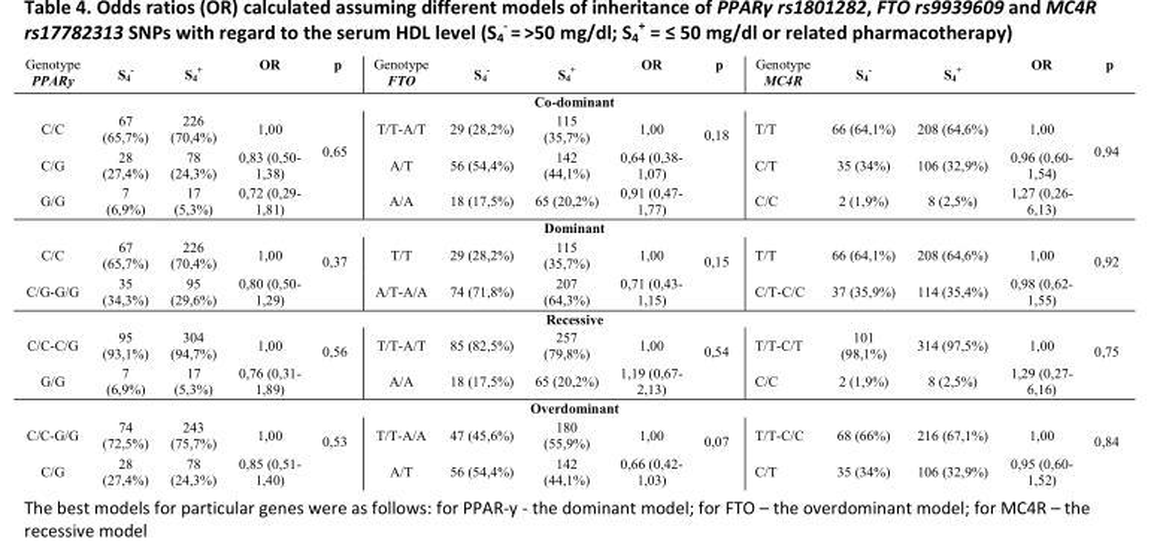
<table><tbody><tr><td>Genotype PPARy</td><td>S<sub>4</sub> <sup>-</sup></td><td>S<sub>4</sub> <sup>+</sup></td><td>OR</td><td>p</td><td>Genotype FTO</td><td>S<sub>4</sub> <sup>-</sup></td><td>S<sub>4</sub> <sup>+</sup></td><td>OR</td><td>p</td><td>Genotype MC4R</td><td>S<sub>4</sub> <sup>-</sup></td><td>S<sub>4</sub> <sup>+</sup></td><td>OR</td><td>p</td></tr><tr><td colspan="15">Co-dominant</td></tr><tr><td>C/C</td><td>67 (65,7%)</td><td>226 (70,4%)</td><td>1,00</td><td rowspan="3">0,65</td><td>T/T-A/T</td><td>29 (28,2%)</td><td>115 (35,7%)</td><td>1,00</td><td rowspan="3">0,18</td><td>T/T</td><td>66 (64,1%)</td><td>208 (64,6%)</td><td>1,00</td><td rowspan="3">0,94</td></tr><tr><td>C/G</td><td>28 (27,4%)</td><td>78 (24,3%)</td><td>0,83 (0,50- 1,38)</td><td>A/T</td><td>56 (54,4%)</td><td>142 (44,1%)</td><td>0,64 (0,38- 1,07)</td><td>C/T</td><td>35 (34%)</td><td>106 (32,9%)</td><td>0,96 (0,60- 1,54)</td></tr><tr><td>G/G</td><td>7 (6,9%)</td><td>17 (5,3%)</td><td>0,72 (0,29- 1,81)</td><td>A/A</td><td>18 (17,5%)</td><td>65 (20,2%)</td><td>0,91 (0,47- 1,77)</td><td>C/C</td><td>2 (1,9%)</td><td>8 (2,5%)</td><td>1,27 (0,26- 6,13)</td></tr><tr><td colspan="15">Dominant</td></tr><tr><td>C/C</td><td>67 (65,7%)</td><td>226 (70,4%)</td><td>1,00</td><td rowspan="2">0,37</td><td>T/T</td><td>29 (28,2%)</td><td>115 (35,7%)</td><td>1,00</td><td rowspan="2">0,15</td><td>T/T</td><td>66 (64,1%)</td><td>208 (64,6%)</td><td>1,00</td><td rowspan="2">0,92</td></tr><tr><td>C/G-G/G</td><td>35 (34,3%)</td><td>95 (29,6%)</td><td>0,80 (0,50- 1,29)</td><td>A/T-A/A</td><td>74 (71,8%)</td><td>207 (64,3%)</td><td>0,71 (0,43- 1,15)</td><td>C/T-C/C</td><td>37 (35,9%)</td><td>114 (35,4%)</td><td>0,98 (0,62- 1,55)</td></tr><tr><td colspan="15">Recessive</td></tr><tr><td>C/C-C/G</td><td>95 (93,1%)</td><td>304 (94,7%)</td><td>1,00</td><td rowspan="2">0,56</td><td>T/T-A/T</td><td>85 (82,5%)</td><td>257 (79,8%)</td><td>1,00</td><td rowspan="2">0,54</td><td>T/T-C/T</td><td>101 (98,1%)</td><td>314 (97,5%)</td><td>1,00</td><td rowspan="2">0,75</td></tr><tr><td>G/G</td><td>7 (6,9%)</td><td>17 (5,3%)</td><td>0,76 (0,31- 1,89)</td><td>A/A</td><td>18 (17,5%)</td><td>65 (20,2%)</td><td>1,19 (0,67- 2,13)</td><td>C/C</td><td>2 (1,9%)</td><td>8 (2,5%)</td><td>1,29 (0,27- 6,16)</td></tr><tr><td colspan="15">Overdominant</td></tr><tr><td>C/C-G/G</td><td>74 (72,5%)</td><td>243 (75,7%)</td><td>1,00</td><td rowspan="2">0,53</td><td>T/T-A/A</td><td>47 (45,6%)</td><td>180 (55,9%)</td><td>1,00</td><td rowspan="2">0,07</td><td>T/T-C/C</td><td>68 (66%)</td><td>216 (67,1%)</td><td>1,00</td><td rowspan="2">0,84</td></tr><tr><td>C/G</td><td>28 (27,4%)</td><td>78 (24,3%)</td><td>0,85 (0,51- 1,40)</td><td>A/T</td><td>56 (54,4%)</td><td>142 (44,1%)</td><td>0,66 (0,42- 1,03)</td><td>C/T</td><td>35 (34%)</td><td>106 (32,9%)</td><td>0,95 (0,60- 1,52)</td></tr></tbody></table>